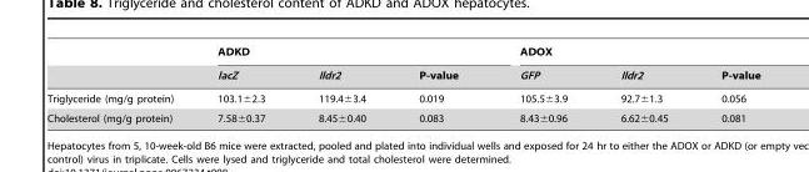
<table><thead><tr><td rowspan="2"></td><td colspan="3">ADKD</td><td colspan="3">ADOX</td></tr><tr><td>lacZ</td><td>Ildr2</td><td>P-value</td><td>GFP</td><td>Ildr2</td><td>P-value</td></tr></thead><tbody><tr><td>Triglyceride (mg/g protein)</td><td>103.1±2.3</td><td>119.4±3.4</td><td>0.019</td><td>105.5±3.9</td><td>92.7±1.3</td><td>0.056</td></tr><tr><td>Cholesterol (mg/g protein)</td><td>7.58±0.37</td><td>8.45±0.40</td><td>0.083</td><td>8.43±0.96</td><td>6.62±0.45</td><td>0.081</td></tr></tbody></table>